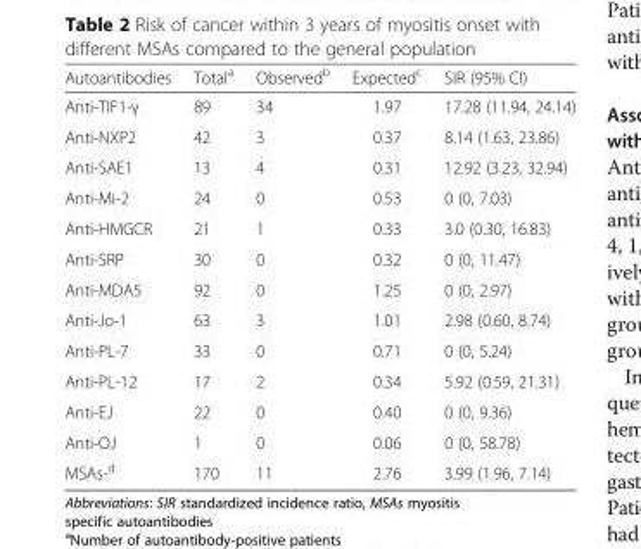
<table><thead><tr><td>Autoantibodies</td><td>Total<sup>a</sup></td><td>Observed<sup>b</sup></td><td>Expected<sup>c</sup></td><td>SIR (95% CI)</td></tr></thead><tbody><tr><td>Anti-TIF1-γ</td><td>89</td><td>34</td><td>1.97</td><td>17.28 (11.94, 24.14)</td></tr><tr><td>Anti-NXP2</td><td>42</td><td>3</td><td>0.37</td><td>8.14 (1.63, 23.86)</td></tr><tr><td>Anti-SAE1</td><td>13</td><td>4</td><td>0.31</td><td>12.92 (3.23, 32.94)</td></tr><tr><td>Anti-Mi-2</td><td>24</td><td>0</td><td>0.53</td><td>0 (0, 7.03)</td></tr><tr><td>Anti-HMGCR</td><td>21</td><td>1</td><td>0.33</td><td>3.0 (0.30, 16.83)</td></tr><tr><td>Anti-SRP</td><td>30</td><td>0</td><td>0.32</td><td>0 (0, 11.47)</td></tr><tr><td>Anti-MDA5</td><td>92</td><td>0</td><td>1.25</td><td>0 (0, 2.97)</td></tr><tr><td>Anti-Jo-1</td><td>63</td><td>3</td><td>1.01</td><td>2.98 (0.60, 8.74)</td></tr><tr><td>Anti-PL-7</td><td>33</td><td>0</td><td>0.71</td><td>0 (0, 5.24)</td></tr><tr><td>Anti-PL-12</td><td>17</td><td>2</td><td>0.34</td><td>5.92 (0.59, 21.31)</td></tr><tr><td>Anti-EJ</td><td>22</td><td>0</td><td>0.40</td><td>0 (0, 9.36)</td></tr><tr><td>Anti-OJ</td><td>1</td><td>0</td><td>0.06</td><td>0 (0, 58.78)</td></tr><tr><td>MSAs-<sup>d</sup></td><td>170</td><td>11</td><td>2.76</td><td>3.99 (1.96, 7.14)</td></tr></tbody></table>